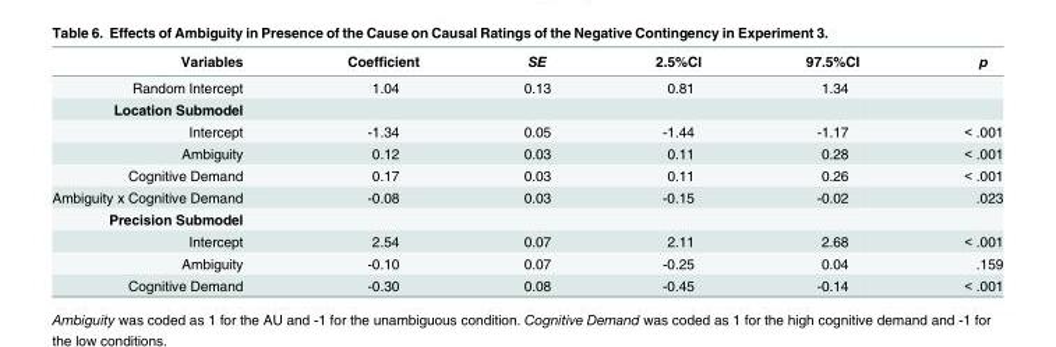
<table><thead><tr><td>Variables</td><td>Coefficient</td><td>SE</td><td>2.5%CI</td><td>97.5%CI</td><td>p</td></tr></thead><tbody><tr><td>Random Intercept</td><td>1.04</td><td>0.13</td><td>0.81</td><td>1.34</td><td></td></tr><tr><td colspan="6">Location Submodel</td></tr><tr><td>Intercept</td><td>-1.34</td><td>0.05</td><td>-1.44</td><td>-1.17</td><td>&lt; .001</td></tr><tr><td>Ambiguity</td><td>0.12</td><td>0.03</td><td>0.11</td><td>0.28</td><td>&lt; .001</td></tr><tr><td>Cognitive Demand</td><td>0.17</td><td>0.03</td><td>0.11</td><td>0.26</td><td>&lt; .001</td></tr><tr><td>Ambiguity x Cognitive Demand</td><td>-0.08</td><td>0.03</td><td>-0.15</td><td>-0.02</td><td>.023</td></tr><tr><td colspan="6">Precision Submodel</td></tr><tr><td>Intercept</td><td>2.54</td><td>0.07</td><td>2.11</td><td>2.68</td><td>&lt; .001</td></tr><tr><td>Ambiguity</td><td>-0.10</td><td>0.07</td><td>-0.25</td><td>0.04</td><td>.159</td></tr><tr><td>Cognitive Demand</td><td>-0.30</td><td>0.08</td><td>-0.45</td><td>-0.14</td><td>&lt; .001</td></tr></tbody></table>